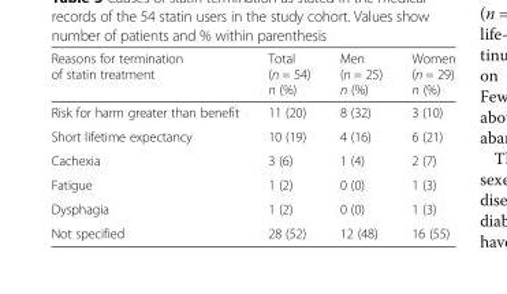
<table><thead><tr><td>Reasons for termination of statin treatment</td><td>Total (n = 54) n (%)</td><td>Men (n = 25) n (%)</td><td>Women (n = 29) n (%)</td></tr></thead><tbody><tr><td>Risk for harm greater than benefit</td><td>11 (20)</td><td>8 (32)</td><td>3 (10)</td></tr><tr><td>Short lifetime expectancy</td><td>10 (19)</td><td>4 (16)</td><td>6 (21)</td></tr><tr><td>Cachexia</td><td>3 (6)</td><td>1 (4)</td><td>2 (7)</td></tr><tr><td>Fatigue</td><td>1 (2)</td><td>0 (0)</td><td>1 (3)</td></tr><tr><td>Dysphagia</td><td>1 (2)</td><td>0 (0)</td><td>1 (3)</td></tr><tr><td>Not specified</td><td>28 (52)</td><td>12 (48)</td><td>16 (55)</td></tr></tbody></table>